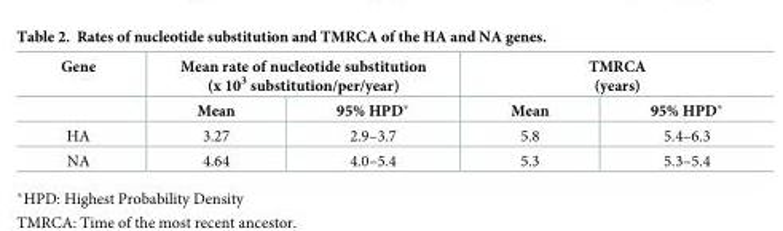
<table><thead><tr><td rowspan="2">Gene</td><td colspan="2">Mean rate of nucleotide substitution (x 10<sup>3</sup> substitution/per/year)</td><td colspan="2">TMRCA (years)</td></tr><tr><td>Mean</td><td>95% HPD*</td><td>Mean</td><td>95% HPD*</td></tr></thead><tbody><tr><td>HA</td><td>3.27</td><td>2.9–3.7</td><td>5.8</td><td>5.4–6.3</td></tr><tr><td>NA</td><td>4.64</td><td>4.0–5.4</td><td>5.3</td><td>5.3–5.4</td></tr></tbody></table>